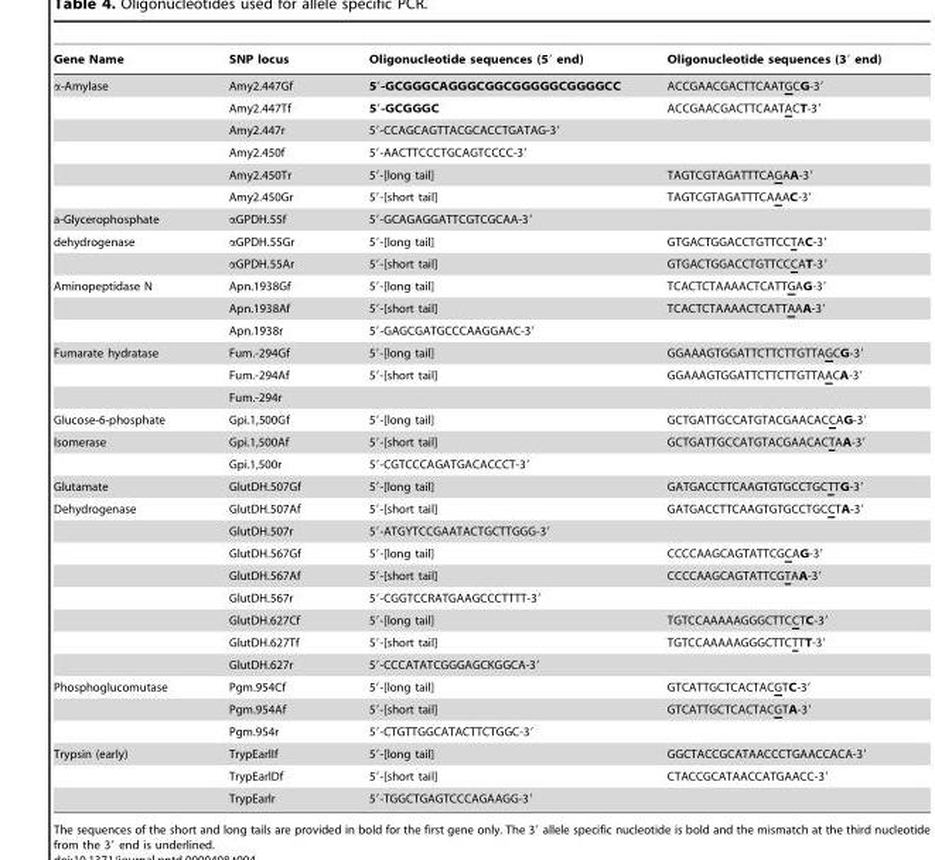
<table><thead><tr><td>Gene Name</td><td>SNP locus</td><td>Oligonucleotide sequences (5′ end)</td><td>Oligonucleotide sequences (3′ end)</td></tr></thead><tbody><tr><td rowspan="6">α-Amylase</td><td>Amy2.447Gf</td><td>5′-GCGGGCAGGGCGGCGGGGGCGGGGCC</td><td>ACCGAACGACTTCAATGCG-3′</td></tr><tr><td>Amy2.447Tf</td><td>5′-GCGGGC</td><td>ACCGAACGACTTCAATACT-3′</td></tr><tr><td>Amy2.447r</td><td>5′-CCAGCAGTTACGCACCTGATAG-3′</td><td></td></tr><tr><td>Amy2.450f</td><td>5′-AACTTCCCTGCAGTCCCC-3′</td><td></td></tr><tr><td>Amy2.450Tr</td><td>5′-[long tail]</td><td>TAGTCGTAGATTTCAGAA-3′</td></tr><tr><td>Amy2.450Gr</td><td>5′-[short tail]</td><td>TAGTCGTAGATTTCAAAC-3′</td></tr><tr><td>a-Glycerophosphate</td><td>αGPDH.55f</td><td>5′-GCAGAGGATTCGTCGCAA-3′</td><td></td></tr><tr><td rowspan="2">dehydrogenase</td><td>αGPDH.55Gr</td><td>5′-[long tail]</td><td>GTGACTGGACCTGTTCCTAC-3′</td></tr><tr><td>αGPDH.55Ar</td><td>5′-[short tail]</td><td>GTGACTGGACCTGTTCCCAT-3′</td></tr><tr><td rowspan="3">Aminopeptidase N</td><td>Apn.1938Gf</td><td>5′-[long tail]</td><td>TCACTCTAAAACTCATTGAG-3′</td></tr><tr><td>Apn.1938Af</td><td>5′-[short tail]</td><td>TCACTCTAAAACTCATTAAA-3′</td></tr><tr><td>Apn.1938r</td><td>5′-GAGCGATGCCCAAGGAAC-3′</td><td></td></tr><tr><td rowspan="3">Fumarate hydratase</td><td>Fum.-294Gf</td><td>5′-[long tail]</td><td>GGAAAGTGGATTCTTCTTGTTAGCG-3′</td></tr><tr><td>Fum.-294Af</td><td>5′-[short tail]</td><td>GGAAAGTGGATTCTTCTTGTTAACA-3′</td></tr><tr><td>Fum.-294r</td><td></td><td></td></tr><tr><td>Glucose-6-phosphate</td><td>Gpi.1,500Gf</td><td>5′-[long tail]</td><td>GCTGATTGCCATGTACGAACACCAG-3′</td></tr><tr><td rowspan="2">Isomerase</td><td>Gpi.1,500Af</td><td>5′-[short tail]</td><td>GCTGATTGCCATGTACGAACACTAA-3′</td></tr><tr><td>Gpi.1,500r</td><td>5′-CGTCCCAGATGACACCCT-3′</td><td></td></tr><tr><td>Glutamate</td><td>GlutDH.507Gf</td><td>5′-[long tail]</td><td>GATGACCTTCAAGTGTGCCTGCTTG-3′</td></tr><tr><td rowspan="8">Dehydrogenase</td><td>GlutDH.507Af</td><td>5′-[short tail]</td><td>GATGACCTTCAAGTGTGCCTGCCTA-3′</td></tr><tr><td>GlutDH.507r</td><td>5′-ATGYTCCGAATACTGCTTGGG-3′</td><td></td></tr><tr><td>GlutDH.567Gf</td><td>5′-[long tail]</td><td>CCCCAAGCAGTATTCGCAG-3′</td></tr><tr><td>GlutDH.567Af</td><td>5′-[short tail]</td><td>CCCCAAGCAGTATTCGTAA-3′</td></tr><tr><td>GlutDH.567r</td><td>5′-CGGTCCRATGAAGCCCTTTT-3′</td><td></td></tr><tr><td>GlutDH.627Cf</td><td>5′-[long tail]</td><td>TGTCCAAAAAGGGCTTCCTC-3′</td></tr><tr><td>GlutDH.627Tf</td><td>5′-[short tail]</td><td>TGTCCAAAAAGGGCTTCTTT-3′</td></tr><tr><td>GlutDH.627r</td><td>5′-CCCATATCGGGAGCKGGCA-3′</td><td></td></tr><tr><td rowspan="3">Phosphoglucomutase</td><td>Pgm.954Cf</td><td>5′-[long tail]</td><td>GTCATTGCTCACTACGTC-3′</td></tr><tr><td>Pgm.954Af</td><td>5′-[short tail]</td><td>GTCATTGCTCACTACGTA-3′</td></tr><tr><td>Pgm.954r</td><td>5′-CTGTTGGCATACTTCTGGC-3′</td><td></td></tr><tr><td rowspan="3">Trypsin (early)</td><td>TrypEarlIf</td><td>5′-[long tail]</td><td>GGCTACCGCATAACCCTGAACCACA-3′</td></tr><tr><td>TrypEarlDf</td><td>5′-[short tail]</td><td>CTACCGCATAACCATGAACC-3′</td></tr><tr><td>TrypEarlr</td><td>5′-TGGCTGAGTCCCAGAAGG-3′</td><td></td></tr></tbody></table>